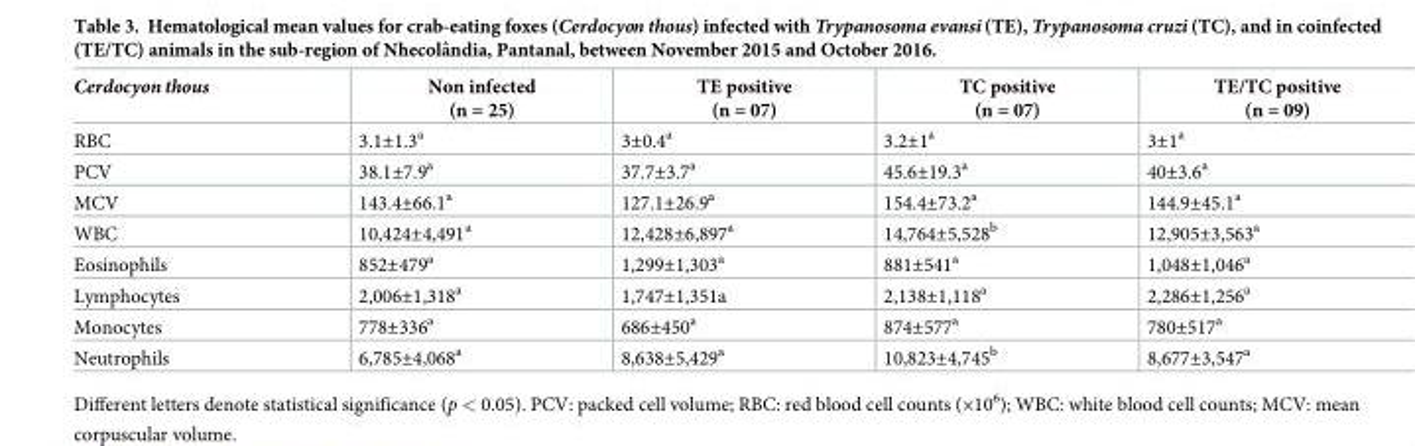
<table><thead><tr><td>Cerdocyon thous</td><td>Non infected (n = 25)</td><td>TE positive (n = 07)</td><td>TC positive (n = 07)</td><td>TE/TC positive (n = 09)</td></tr></thead><tbody><tr><td>RBC</td><td>3.1±1.3<sup>a</sup></td><td>3±0.4<sup>a</sup></td><td>3.2±1<sup>a</sup></td><td>3±1<sup>a</sup></td></tr><tr><td>PCV</td><td>38.1±7.9<sup>a</sup></td><td>37.7±3.7<sup>a</sup></td><td>45.6±19.3<sup>a</sup></td><td>40±3.6<sup>a</sup></td></tr><tr><td>MCV</td><td>143.4±66.1<sup>a</sup></td><td>127.1±26.9<sup>a</sup></td><td>154.4±73.2<sup>a</sup></td><td>144.9±45.1<sup>a</sup></td></tr><tr><td>WBC</td><td>10,424±4,491<sup>a</sup></td><td>12,428±6,897<sup>a</sup></td><td>14,764±5,528<sup>b</sup></td><td>12,905±3,563<sup>a</sup></td></tr><tr><td>Eosinophils</td><td>852±479<sup>a</sup></td><td>1,299±1,303<sup>a</sup></td><td>881±541<sup>a</sup></td><td>1,048±1,046<sup>a</sup></td></tr><tr><td>Lymphocytes</td><td>2,006±1,318<sup>a</sup></td><td>1,747±1,351a</td><td>2,138±1,118<sup>a</sup></td><td>2,286±1,256<sup>a</sup></td></tr><tr><td>Monocytes</td><td>778±336<sup>a</sup></td><td>686±450<sup>a</sup></td><td>874±577<sup>a</sup></td><td>780±517<sup>a</sup></td></tr><tr><td>Neutrophils</td><td>6,785±4,068<sup>a</sup></td><td>8,638±5,429<sup>a</sup></td><td>10,823±4,745<sup>b</sup></td><td>8,677±3,547<sup>a</sup></td></tr></tbody></table>